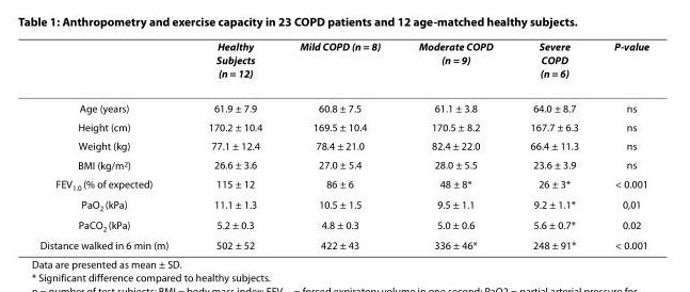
<table><thead><tr><td></td><td>Healthy Subjects (n = 12)</td><td>Mild COPD (n = 8)</td><td>Moderate COPD (n = 9)</td><td>Severe COPD (n = 6)</td><td>P-value</td></tr></thead><tbody><tr><td>Age (years)</td><td>61.9 ± 7.9</td><td>60.8 ± 7.5</td><td>61.1 ± 3.8</td><td>64.0 ± 8.7</td><td>ns</td></tr><tr><td>Height (cm)</td><td>170.2 ± 10.4</td><td>169.5 ± 10.4</td><td>170.5 ± 8.2</td><td>167.7 ± 6.3</td><td>ns</td></tr><tr><td>Weight (kg)</td><td>77.1 ± 12.4</td><td>78.4 ± 21.0</td><td>82.4 ± 22.0</td><td>66.4 ± 11.3</td><td>ns</td></tr><tr><td>BMI (kg/m<sup>2</sup>)</td><td>26.6 ± 3.6</td><td>27.0 ± 5.4</td><td>28.0 ± 5.5</td><td>23.6 ± 3.9</td><td>ns</td></tr><tr><td>FEV<sub>1.0</sub> (% of expected)</td><td>115 ± 12</td><td>86 ± 6</td><td>48 ± 8*</td><td>26 ± 3*</td><td>&lt; 0.001</td></tr><tr><td>PaO<sub>2</sub> (kPa)</td><td>11.1 ± 1.3</td><td>10.5 ± 1.5</td><td>9.5 ± 1.1</td><td>9.2 ± 1.1*</td><td>0,01</td></tr><tr><td>PaCO<sub>2</sub> (kPa)</td><td>5.2 ± 0.3</td><td>4.8 ± 0.3</td><td>5.0 ± 0.6</td><td>5.6 ± 0.7*</td><td>0.02</td></tr><tr><td>Distance walked in 6 min (m)</td><td>502 ± 52</td><td>422 ± 43</td><td>336 ± 46*</td><td>248 ± 91*</td><td>&lt; 0.001</td></tr></tbody></table>